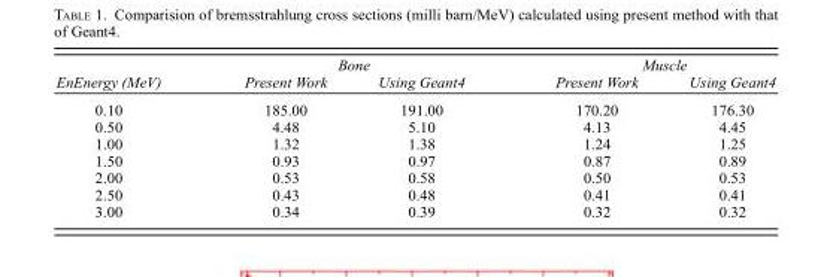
<table><thead><tr><td rowspan="2">EnEnergy (MeV)</td><td colspan="2">Bone</td><td colspan="2">Muscle</td></tr><tr><td>Present Work</td><td>Using Geant4</td><td>Present Work</td><td>Using Geant4</td></tr></thead><tbody><tr><td>0.10</td><td>185.00</td><td>191.00</td><td>170.20</td><td>176.30</td></tr><tr><td>0.50</td><td>4.48</td><td>5.10</td><td>4.13</td><td>4.45</td></tr><tr><td>1.00</td><td>1.32</td><td>1.38</td><td>1.24</td><td>1.25</td></tr><tr><td>1.50</td><td>0.93</td><td>0.97</td><td>0.87</td><td>0.89</td></tr><tr><td>2.00</td><td>0.53</td><td>0.58</td><td>0.50</td><td>0.53</td></tr><tr><td>2.50</td><td>0.43</td><td>0.48</td><td>0.41</td><td>0.41</td></tr><tr><td>3.00</td><td>0.34</td><td>0.39</td><td>0.32</td><td>0.32</td></tr></tbody></table>